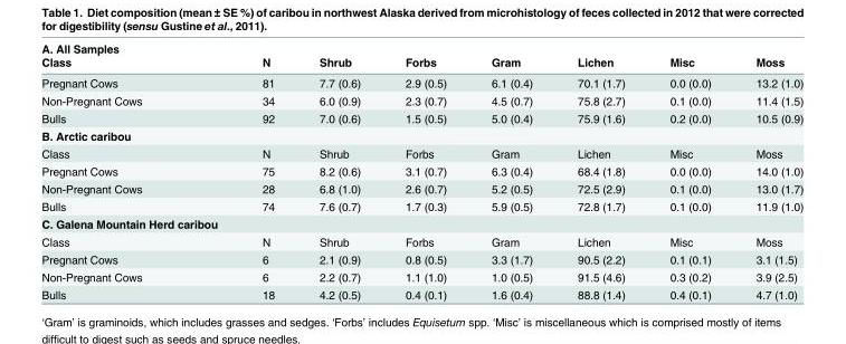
<table><thead><tr><td rowspan="2">A. All Samples Class</td><td rowspan="2">N</td><td rowspan="2">Shrub</td><td rowspan="2">Forbs</td><td rowspan="2">Gram</td><td rowspan="2">Lichen</td><td rowspan="2">Misc</td><td rowspan="2">Moss</td></tr><tr></tr></thead><tbody><tr><td>Pregnant Cows</td><td>81</td><td>7.7 (0.6)</td><td>2.9 (0.5)</td><td>6.1 (0.4)</td><td>70.1 (1.7)</td><td>0.0 (0.0)</td><td>13.2 (1.0)</td></tr><tr><td>Non-Pregnant Cows</td><td>34</td><td>6.0 (0.9)</td><td>2.3 (0.7)</td><td>4.5 (0.7)</td><td>75.8 (2.7)</td><td>0.1 (0.0)</td><td>11.4 (1.5)</td></tr><tr><td>Bulls</td><td>92</td><td>7.0 (0.6)</td><td>1.5 (0.5)</td><td>5.0 (0.4)</td><td>75.9 (1.6)</td><td>0.2 (0.0)</td><td>10.5 (0.9)</td></tr><tr><td colspan="8">B. Arctic caribou</td></tr><tr><td>Class</td><td>N</td><td>Shrub</td><td>Forbs</td><td>Gram</td><td>Lichen</td><td>Misc</td><td>Moss</td></tr><tr><td>Pregnant Cows</td><td>75</td><td>8.2 (0.6)</td><td>3.1 (0.7)</td><td>6.3 (0.4)</td><td>68.4 (1.8)</td><td>0.0 (0.0)</td><td>14.0 (1.0)</td></tr><tr><td>Non-Pregnant Cows</td><td>28</td><td>6.8 (1.0)</td><td>2.6 (0.7)</td><td>5.2 (0.5)</td><td>72.5 (2.9)</td><td>0.1 (0.0)</td><td>13.0 (1.7)</td></tr><tr><td>Bulls</td><td>74</td><td>7.6 (0.7)</td><td>1.7 (0.3)</td><td>5.9 (0.5)</td><td>72.8 (1.7)</td><td>0.1 (0.0)</td><td>11.9 (1.0)</td></tr><tr><td colspan="8">C. Galena Mountain Herd caribou</td></tr><tr><td>Class</td><td>N</td><td>Shrub</td><td>Forbs</td><td>Gram</td><td>Lichen</td><td>Misc</td><td>Moss</td></tr><tr><td>Pregnant Cows</td><td>6</td><td>2.1 (0.9)</td><td>0.8 (0.5)</td><td>3.3 (1.7)</td><td>90.5 (2.2)</td><td>0.1 (0.1)</td><td>3.1 (1.5)</td></tr><tr><td>Non-Pregnant Cows</td><td>6</td><td>2.2 (0.7)</td><td>1.1 (1.0)</td><td>1.0 (0.5)</td><td>91.5 (4.6)</td><td>0.3 (0.2)</td><td>3.9 (2.5)</td></tr><tr><td>Bulls</td><td>18</td><td>4.2 (0.5)</td><td>0.4 (0.1)</td><td>1.6 (0.4)</td><td>88.8 (1.4)</td><td>0.4 (0.1)</td><td>4.7 (1.0)</td></tr></tbody></table>